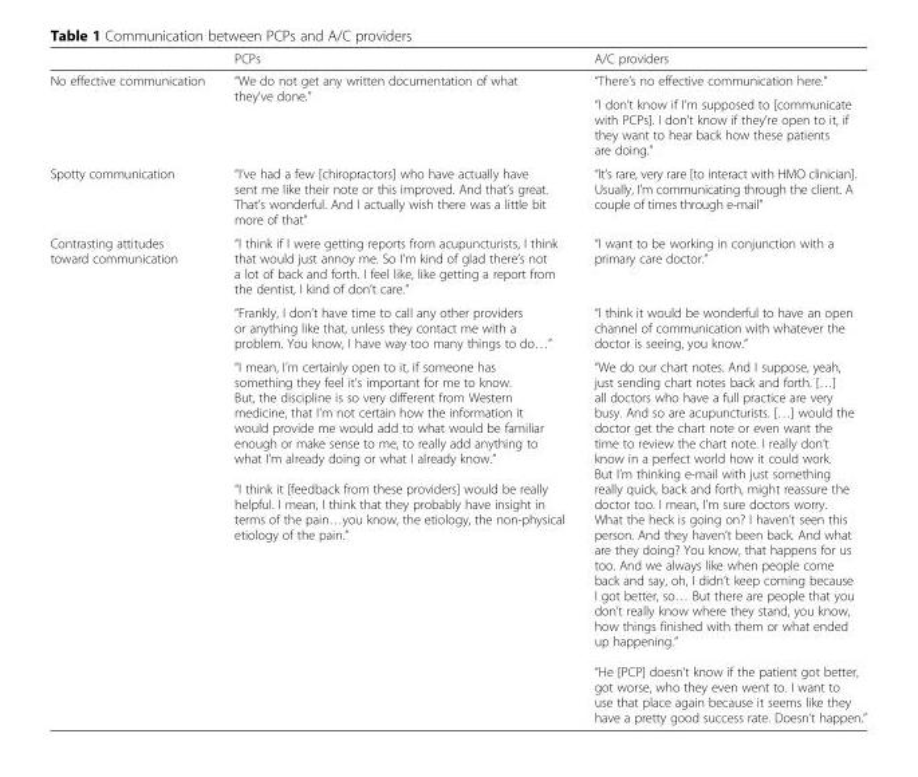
<table><thead><tr><td></td><td>PCPs</td><td>A/C providers</td></tr></thead><tbody><tr><td rowspan="2">No effective communication</td><td rowspan="2">“We do not get any written documentation of what they’ve done.”</td><td>“There’s no effective communication here.”</td></tr><tr><td>“I don’t know if I’m supposed to [communicate with PCPs]. I don’t know if they’re open to it, if they want to hear back how these patients are doing.”</td></tr><tr><td>Spotty communication</td><td>“I’ve had a few [chiropractors] who have actually have sent me like their note or this improved. And that’s great. That’s wonderful. And I actually wish there was a little bit more of that”</td><td>“It’s rare, very rare [to interact with HMO clinician]. Usually, I’m communicating through the client. A couple of times through e-mail”</td></tr><tr><td rowspan="3">Contrasting attitudes toward communication</td><td>“I think if I were getting reports from acupuncturists, I think that would just annoy me. So I’m kind of glad there’s not a lot of back and forth. I feel like, like getting a report from the dentist, I kind of don’t care.”</td><td>“I want to be working in conjunction with a primary care doctor.”</td></tr><tr><td>“Frankly, I don’t have time to call any other providers or anything like that, unless they contact me with a problem. You know, I have way too many things to do…”</td><td>“I think it would be wonderful to have an open channel of communication with whatever the doctor is seeing, you know.”</td></tr><tr><td>“I mean, I’m certainly open to it, if someone has something they feel it’s important for me to know. But, the discipline is so very different from Western medicine, that I’m not certain how the information it would provide me would add to what would be familiar enough or make sense to me, to really add anything to what I’m already doing or what I already know.” “I think it [feedback from these providers] would be really helpful. I mean, I think that they probably have insight in terms of the pain…you know, the etiology, the non-physical etiology of the pain.”</td><td>“We do our chart notes. And I suppose, yeah, just sending chart notes back and forth. […] all doctors who have a full practice are very busy. And so are acupuncturists. […] would the doctor get the chart note or even want the time to review the chart note. I really don’t know in a perfect world how it could work. But I’m thinking e-mail with just something really quick, back and forth, might reassure the doctor too. I mean, I’m sure doctors worry. What the heck is going on? I haven’t seen this person. And they haven’t been back. And what are they doing? You know, that happens for us too. And we always like when people come back and say, oh, I didn’t keep coming because I got better, so… But there are people that you don’t really know where they stand, you know, how things finished with them or what ended up happening.” “He [PCP] doesn’t know if the patient got better, got worse, who they even went to. I want to use that place again because it seems like they have a pretty good success rate. Doesn’t happen.”</td></tr></tbody></table>